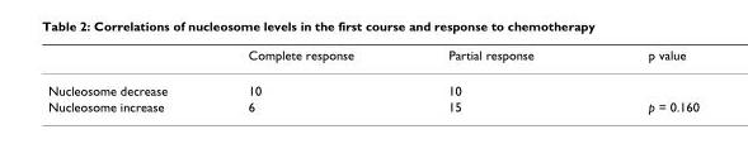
<table><thead><tr><td></td><td>Complete response</td><td>Partial response</td><td>p value</td></tr></thead><tbody><tr><td>Nucleosome decrease</td><td>10</td><td>10</td><td></td></tr><tr><td>Nucleosome increase</td><td>6</td><td>15</td><td>p = 0.160</td></tr></tbody></table>